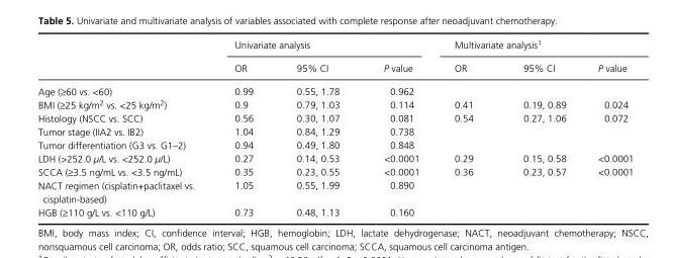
<table><thead><tr><td rowspan="2"></td><td colspan="3">Univariate analysis</td><td colspan="3">Multivariate analysis1</td></tr><tr><td>OR</td><td>95% CI</td><td>P value</td><td>OR</td><td>95% CI</td><td>P value</td></tr></thead><tbody><tr><td>Age (≥60 vs. &lt;60)</td><td>0.99</td><td>0.55, 1.78</td><td>0.962</td><td></td><td></td><td></td></tr><tr><td>BMI (≥25 kg/m<sup>2</sup> vs. &lt;25 kg/m<sup>2</sup>)</td><td>0.9</td><td>0.79, 1.03</td><td>0.114</td><td>0.41</td><td>0.19, 0.89</td><td>0.024</td></tr><tr><td>Histology (NSCC vs. SCC)</td><td>0.56</td><td>0.30, 1.07</td><td>0.081</td><td>0.54</td><td>0.27, 1.06</td><td>0.072</td></tr><tr><td>Tumor stage (IIA2 vs. IB2)</td><td>1.04</td><td>0.84, 1.29</td><td>0.738</td><td></td><td></td><td></td></tr><tr><td>Tumor differentiation (G3 vs. G1–2)</td><td>0.94</td><td>0.49, 1.80</td><td>0.848</td><td></td><td></td><td></td></tr><tr><td>LDH (&gt;252.0 μ/L vs. &lt;252.0 μ/L)</td><td>0.27</td><td>0.14, 0.53</td><td>&lt;0.0001</td><td>0.29</td><td>0.15, 0.58</td><td>&lt;0.0001</td></tr><tr><td>SCCA (≥3.5 ng/mL vs. &lt;3.5 ng/mL)</td><td>0.35</td><td>0.23, 0.55</td><td>&lt;0.0001</td><td>0.36</td><td>0.23, 0.57</td><td>&lt;0.0001</td></tr><tr><td>NACT regimen (cisplatin+paclitaxel vs. cisplatin- based)</td><td>1.05</td><td>0.55, 1.99</td><td>0.890</td><td></td><td></td><td></td></tr><tr><td>HGB (≥110 g/L vs. &lt;110 g/L)</td><td>0.73</td><td>0.48, 1.13</td><td>0.160</td><td></td><td></td><td></td></tr></tbody></table>